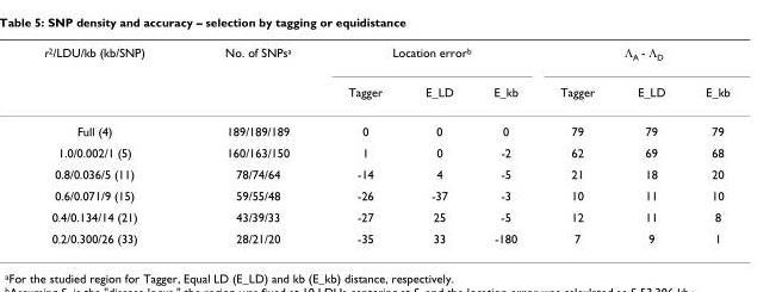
<table><thead><tr><td rowspan="2">r<sup>2</sup>/LDU/kb (kb/SNP)</td><td rowspan="2">No. of SNPs<sup>a</sup></td><td colspan="3">Location error<sup>b</sup></td><td colspan="3">Λ<sub>A</sub> - Λ<sub>D</sub></td></tr><tr><td>Tagger</td><td>E_LD</td><td>E_kb</td><td>Tagger</td><td>E_LD</td><td>E_kb</td></tr></thead><tbody><tr><td>Full (4)</td><td>189/189/189</td><td>0</td><td>0</td><td>0</td><td>79</td><td>79</td><td>79</td></tr><tr><td>1.0/0.002/1 (5)</td><td>160/163/150</td><td>1</td><td>0</td><td>-2</td><td>62</td><td>69</td><td>68</td></tr><tr><td>0.8/0.036/5 (11)</td><td>78/74/64</td><td>-14</td><td>4</td><td>-5</td><td>21</td><td>18</td><td>20</td></tr><tr><td>0.6/0.071/9 (15)</td><td>59/55/48</td><td>-26</td><td>-37</td><td>-3</td><td>10</td><td>11</td><td>10</td></tr><tr><td>0.4/0.134/14 (21)</td><td>43/39/33</td><td>-27</td><td>25</td><td>-5</td><td>12</td><td>11</td><td>8</td></tr><tr><td>0.2/0.300/26 (33)</td><td>28/21/20</td><td>-35</td><td>33</td><td>-180</td><td>7</td><td>9</td><td>1</td></tr></tbody></table>